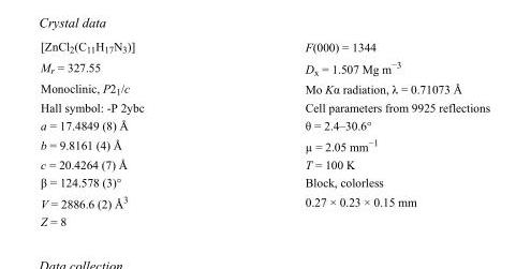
<table><tbody><tr><td>[ZnCl<sub>2</sub>(C<sub>11</sub>H<sub>17</sub>N<sub>3</sub>)]</td><td>F(000) = 1344</td></tr><tr><td>M<sub>r</sub> = 327.55</td><td>D<sub>x</sub> = 1.507 Mg m<sup>−3</sup></td></tr><tr><td>Monoclinic, P2<sub>1</sub>/c</td><td>Mo Kα radiation, λ = 0.71073 Å</td></tr><tr><td>Hall symbol: -P 2ybc</td><td>Cell parameters from 9925 reflections</td></tr><tr><td>a = 17.4849 (8) Å</td><td>θ = 2.4–30.6°</td></tr><tr><td>b = 9.8161 (4) Å</td><td>µ = 2.05 mm<sup>−1</sup></td></tr><tr><td>c = 20.4264 (7) Å</td><td>T = 100 K</td></tr><tr><td>β = 124.578 (3)°</td><td>Block, colorless</td></tr><tr><td>V = 2886.6 (2) Å<sup>3</sup></td><td>0.27 × 0.23 × 0.15 mm</td></tr><tr><td>Z = 8</td><td></td></tr></tbody></table>